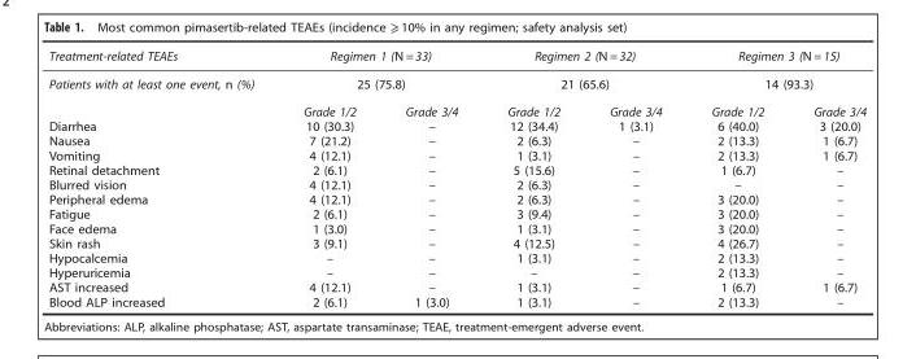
<table><thead><tr><td rowspan="3">Treatment-related TEAEs Patients with at least one event, n (%)</td><td rowspan="2" colspan="2">Regimen 1 (N = 33) 25 (75.8)</td><td rowspan="2" colspan="2">Regimen 2 (N = 32) 21 (65.6)</td><td rowspan="2" colspan="2">Regimen 3 (N = 15) 14 (93.3)</td></tr><tr></tr><tr><td>Grade 1/2</td><td>Grade 3/4</td><td>Grade 1/2</td><td>Grade 3/4</td><td>Grade 1/2</td><td>Grade 3/4</td></tr></thead><tbody><tr><td>Diarrhea</td><td>10 (30.3)</td><td>–</td><td>12 (34.4)</td><td>1 (3.1)</td><td>6 (40.0)</td><td>3 (20.0)</td></tr><tr><td>Nausea</td><td>7 (21.2)</td><td>–</td><td>2 (6.3)</td><td>–</td><td>2 (13.3)</td><td>1 (6.7)</td></tr><tr><td>Vomiting</td><td>4 (12.1)</td><td>–</td><td>1 (3.1)</td><td>–</td><td>2 (13.3)</td><td>1 (6.7)</td></tr><tr><td>Retinal detachment</td><td>2 (6.1)</td><td>–</td><td>5 (15.6)</td><td>–</td><td>1 (6.7)</td><td>–</td></tr><tr><td>Blurred vision</td><td>4 (12.1)</td><td>–</td><td>2 (6.3)</td><td>–</td><td>–</td><td>–</td></tr><tr><td>Peripheral edema</td><td>4 (12.1)</td><td>–</td><td>2 (6.3)</td><td>–</td><td>3 (20.0)</td><td>–</td></tr><tr><td>Fatigue</td><td>2 (6.1)</td><td>–</td><td>3 (9.4)</td><td>–</td><td>3 (20.0)</td><td>–</td></tr><tr><td>Face edema</td><td>1 (3.0)</td><td>–</td><td>1 (3.1)</td><td>–</td><td>3 (20.0)</td><td>–</td></tr><tr><td>Skin rash</td><td>3 (9.1)</td><td>–</td><td>4 (12.5)</td><td>–</td><td>4 (26.7)</td><td>–</td></tr><tr><td>Hypocalcemia</td><td>–</td><td>–</td><td>1 (3.1)</td><td>–</td><td>2 (13.3)</td><td>–</td></tr><tr><td>Hyperuricemia</td><td>–</td><td>–</td><td>–</td><td>–</td><td>2 (13.3)</td><td>–</td></tr><tr><td>AST increased</td><td>4 (12.1)</td><td>–</td><td>1 (3.1)</td><td>–</td><td>1 (6.7)</td><td>1 (6.7)</td></tr><tr><td>Blood ALP increased</td><td>2 (6.1)</td><td>1 (3.0)</td><td>1 (3.1)</td><td>–</td><td>2 (13.3)</td><td>–</td></tr></tbody></table>